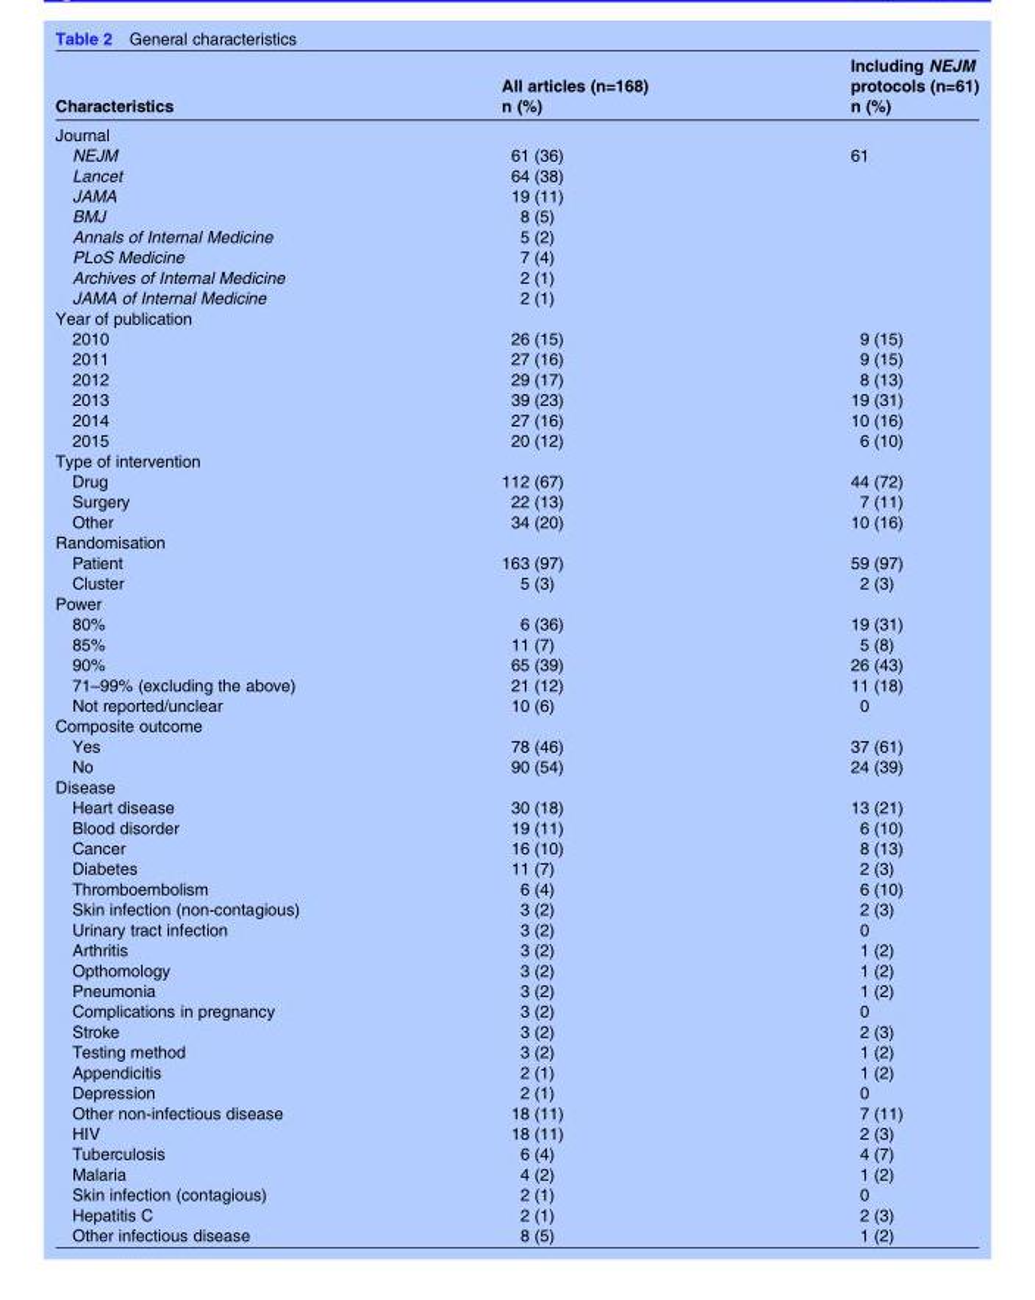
<table><thead><tr><td rowspan="2">Characteristics</td><td rowspan="2">All articles (n=168) n (%)</td><td rowspan="2">Including NEJM protocols (n=61) n (%)</td></tr><tr></tr></thead><tbody><tr><td colspan="3">Journal</td></tr><tr><td>NEJM</td><td>61 (36)</td><td>61</td></tr><tr><td>Lancet</td><td>64 (38)</td><td></td></tr><tr><td>JAMA</td><td>19 (11)</td><td></td></tr><tr><td>BMJ</td><td>8 (5)</td><td></td></tr><tr><td>Annals of Internal Medicine</td><td>5 (2)</td><td></td></tr><tr><td>PLoS Medicine</td><td>7 (4)</td><td></td></tr><tr><td>Archives of Internal Medicine</td><td>2 (1)</td><td></td></tr><tr><td>JAMA of Internal Medicine</td><td>2 (1)</td><td></td></tr><tr><td colspan="3">Year of publication</td></tr><tr><td>2010</td><td>26 (15)</td><td>9 (15)</td></tr><tr><td>2011</td><td>27 (16)</td><td>9 (15)</td></tr><tr><td>2012</td><td>29 (17)</td><td>8 (13)</td></tr><tr><td>2013</td><td>39 (23)</td><td>19 (31)</td></tr><tr><td>2014</td><td>27 (16)</td><td>10 (16)</td></tr><tr><td>2015</td><td>20 (12)</td><td>6 (10)</td></tr><tr><td colspan="3">Type of intervention</td></tr><tr><td>Drug</td><td>112 (67)</td><td>44 (72)</td></tr><tr><td>Surgery</td><td>22 (13)</td><td>7 (11)</td></tr><tr><td>Other</td><td>34 (20)</td><td>10 (16)</td></tr><tr><td colspan="3">Randomisation</td></tr><tr><td>Patient</td><td>163 (97)</td><td>59 (97)</td></tr><tr><td>Cluster</td><td>5 (3)</td><td>2 (3)</td></tr><tr><td colspan="3">Power</td></tr><tr><td>80%</td><td>6 (36)</td><td>19 (31)</td></tr><tr><td>85%</td><td>11 (7)</td><td>5 (8)</td></tr><tr><td>90%</td><td>65 (39)</td><td>26 (43)</td></tr><tr><td>71–99% (excluding the above)</td><td>21 (12)</td><td>11 (18)</td></tr><tr><td>Not reported/unclear</td><td>10 (6)</td><td>0</td></tr><tr><td colspan="3">Composite outcome</td></tr><tr><td>Yes</td><td>78 (46)</td><td>37 (61)</td></tr><tr><td>No</td><td>90 (54)</td><td>24 (39)</td></tr><tr><td colspan="3">Disease</td></tr><tr><td>Heart disease</td><td>30 (18)</td><td>13 (21)</td></tr><tr><td>Blood disorder</td><td>19 (11)</td><td>6 (10)</td></tr><tr><td>Cancer</td><td>16 (10)</td><td>8 (13)</td></tr><tr><td>Diabetes</td><td>11 (7)</td><td>2 (3)</td></tr><tr><td>Thromboembolism</td><td>6 (4)</td><td>6 (10)</td></tr><tr><td>Skin infection (non-contagious)</td><td>3 (2)</td><td>2 (3)</td></tr><tr><td>Urinary tract infection</td><td>3 (2)</td><td>0</td></tr><tr><td>Arthritis</td><td>3 (2)</td><td>1 (2)</td></tr><tr><td>Opthomology</td><td>3 (2)</td><td>1 (2)</td></tr><tr><td>Pneumonia</td><td>3 (2)</td><td>1 (2)</td></tr><tr><td>Complications in pregnancy</td><td>3 (2)</td><td>0</td></tr><tr><td>Stroke</td><td>3 (2)</td><td>2 (3)</td></tr><tr><td>Testing method</td><td>3 (2)</td><td>1 (2)</td></tr><tr><td>Appendicitis</td><td>2 (1)</td><td>1 (2)</td></tr><tr><td>Depression</td><td>2 (1)</td><td>0</td></tr><tr><td>Other non-infectious disease</td><td>18 (11)</td><td>7 (11)</td></tr><tr><td>HIV</td><td>18 (11)</td><td>2 (3)</td></tr><tr><td>Tuberculosis</td><td>6 (4)</td><td>4 (7)</td></tr><tr><td>Malaria</td><td>4 (2)</td><td>1 (2)</td></tr><tr><td>Skin infection (contagious)</td><td>2 (1)</td><td>0</td></tr><tr><td>Hepatitis C</td><td>2 (1)</td><td>2 (3)</td></tr><tr><td>Other infectious disease</td><td>8 (5)</td><td>1 (2)</td></tr></tbody></table>